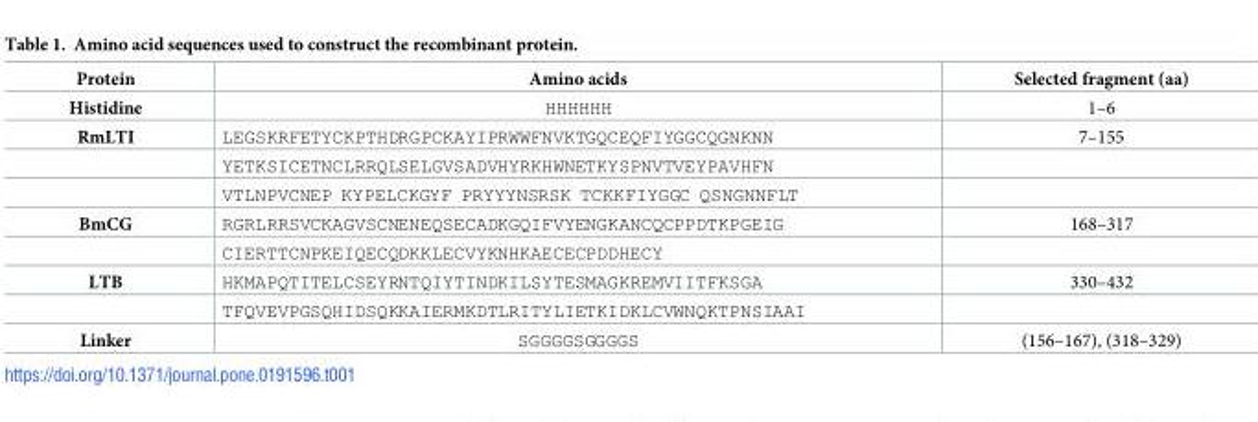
<table><thead><tr><td>Protein</td><td>Amino acids</td><td>Selected fragment (aa)</td></tr></thead><tbody><tr><td>Histidine</td><td>HHHHHH</td><td>1–6</td></tr><tr><td rowspan="3">RmLTI</td><td>LEGSKRFETYCKPTHDRGPCKAYIPRWWFNVKTGQCEQFIYGGCQGNKNN</td><td>7–155</td></tr><tr><td>YETKSICETNCLRRQLSELGVSADVHYRKHWNETKYSPNVTVEYPAVHFN</td><td></td></tr><tr><td>VTLNPVCNEP KYPELCKGYF PRYYYNSRSK TCKKFIYGGC QSNGNNFLT</td><td></td></tr><tr><td rowspan="2">BmCG</td><td>RGRLRRSVCKAGVSCNENEQSECADKGQIFVYENGKANCQCPPDTKPGEIG</td><td>168–317</td></tr><tr><td>CIERTTCNPKEIQECQDKKLECVYKNHKAECECPDDHECY</td><td></td></tr><tr><td rowspan="2">LTB</td><td>HKMAPQTITELCSEYRNTQIYTINDKILSYTESMAGKREMVIITFKSGA</td><td>330–432</td></tr><tr><td>TFQVEVPGSQHIDSQKKAIERMKDTLRITYLIETKIDKLCVWNQKTPNSIAAI</td><td></td></tr><tr><td>Linker</td><td>SGGGGSGGGGS</td><td>(156–167), (318–329)</td></tr></tbody></table>